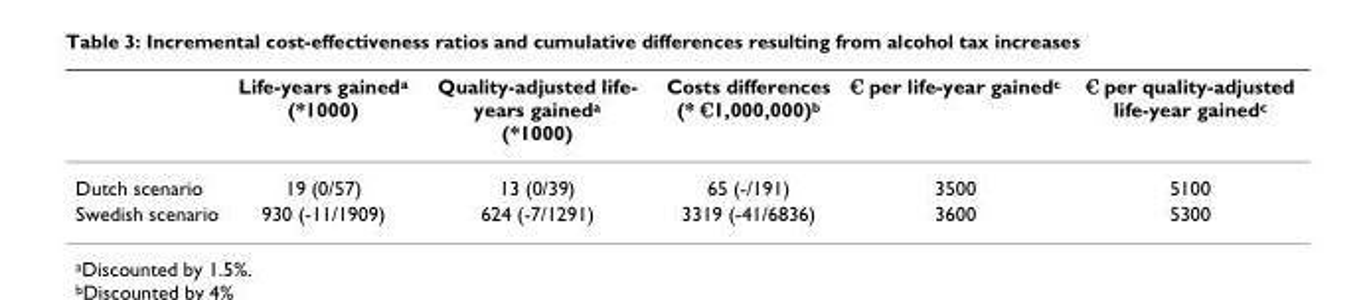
<table><thead><tr><td></td><td>Life-years gained<sup>a</sup> (*1000)</td><td>Quality-adjusted life- years gained<sup>a</sup> (*1000)</td><td>Costs differences (* €1,000,000)<sup>b</sup></td><td>€ per life-year gained<sup>c</sup></td><td>€ per quality-adjusted life-year gained<sup>c</sup></td></tr></thead><tbody><tr><td>Dutch scenario</td><td>19 (0/57)</td><td>13 (0/39)</td><td>65 (-/191)</td><td>3500</td><td>5100</td></tr><tr><td>Swedish scenario</td><td>930 (-11/1909)</td><td>624 (-7/1291)</td><td>3319 (-41/6836)</td><td>3600</td><td>5300</td></tr></tbody></table>